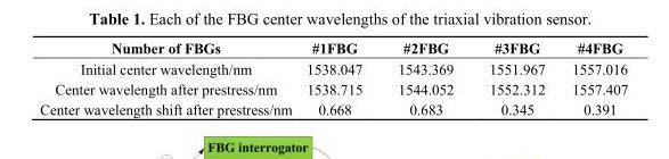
<table><thead><tr><td>Number of FBGs</td><td>#1FBG</td><td>#2FBG</td><td>#3FBG</td><td>#4FBG</td></tr></thead><tbody><tr><td>Initial center wavelength/nm</td><td>1538.047</td><td>1543.369</td><td>1551.967</td><td>1557.016</td></tr><tr><td>Center wavelength after prestress/nm</td><td>1538.715</td><td>1544.052</td><td>1552.312</td><td>1557.407</td></tr><tr><td>Center wavelength shift after prestress/nm</td><td>0.668</td><td>0.683</td><td>0.345</td><td>0.391</td></tr></tbody></table>